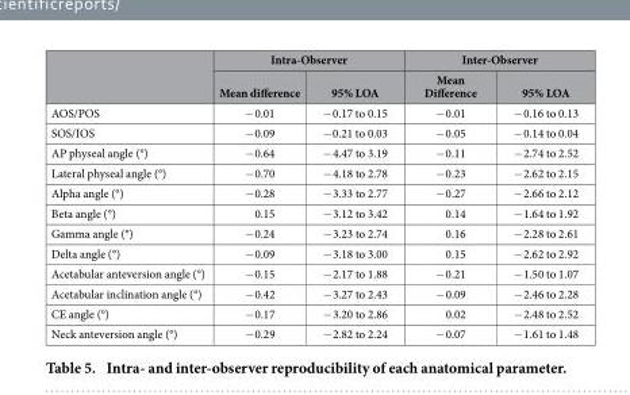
<table><thead><tr><td rowspan="2"></td><td colspan="2">Intra-Observer</td><td colspan="2">Inter-Observer</td></tr><tr><td>Mean difference</td><td>95% LOA</td><td>Mean Difference</td><td>95% LOA</td></tr></thead><tbody><tr><td>AOS/POS</td><td>− 0.01</td><td>− 0.17 to 0.15</td><td>− 0.01</td><td>− 0.16 to 0.13</td></tr><tr><td>SOS/IOS</td><td>− 0.09</td><td>− 0.21 to 0.03</td><td>− 0.05</td><td>− 0.14 to 0.04</td></tr><tr><td>AP physeal angle (°)</td><td>− 0.64</td><td>− 4.47 to 3.19</td><td>− 0.11</td><td>− 2.74 to 2.52</td></tr><tr><td>Lateral physeal angle (°)</td><td>− 0.70</td><td>− 4.18 to 2.78</td><td>− 0.23</td><td>− 2.62 to 2.15</td></tr><tr><td>Alpha angle (°)</td><td>− 0.28</td><td>− 3.33 to 2.77</td><td>− 0.27</td><td>− 2.66 to 2.12</td></tr><tr><td>Beta angle (°)</td><td>0.15</td><td>− 3.12 to 3.42</td><td>0.14</td><td>− 1.64 to 1.92</td></tr><tr><td>Gamma angle (°)</td><td>− 0.24</td><td>− 3.23 to 2.74</td><td>0.16</td><td>− 2.28 to 2.61</td></tr><tr><td>Delta angle (°)</td><td>− 0.09</td><td>− 3.18 to 3.00</td><td>0.15</td><td>− 2.62 to 2.92</td></tr><tr><td>Acetabular anteversion angle (°)</td><td>− 0.15</td><td>− 2.17 to 1.88</td><td>− 0.21</td><td>− 1.50 to 1.07</td></tr><tr><td>Acetabular inclination angle (°)</td><td>− 0.42</td><td>− 3.27 to 2.43</td><td>− 0.09</td><td>− 2.46 to 2.28</td></tr><tr><td>CE angle (°)</td><td>− 0.17</td><td>− 3.20 to 2.86</td><td>0.02</td><td>− 2.48 to 2.52</td></tr><tr><td>Neck anteversion angle (°)</td><td>− 0.29</td><td>− 2.82 to 2.24</td><td>− 0.07</td><td>− 1.61 to 1.48</td></tr></tbody></table>